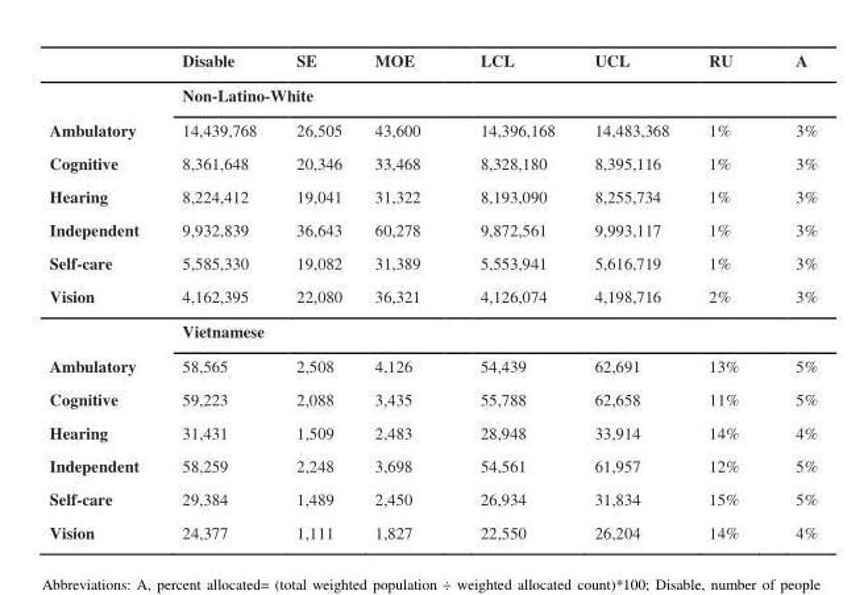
<table><thead><tr><td></td><td>Disable</td><td>SE</td><td>MOE</td><td>LCL</td><td>UCL</td><td>RU</td><td>A</td></tr></thead><tbody><tr><td></td><td colspan="7">Non-Latino-White</td></tr><tr><td>Ambulatory</td><td>14,439,768</td><td>26,505</td><td>43,600</td><td>14,396,168</td><td>14,483,368</td><td>1%</td><td>3%</td></tr><tr><td>Cognitive</td><td>8,361,648</td><td>20,346</td><td>33,468</td><td>8,328,180</td><td>8,395,116</td><td>1%</td><td>3%</td></tr><tr><td>Hearing</td><td>8,224,412</td><td>19,041</td><td>31,322</td><td>8,193,090</td><td>8,255,734</td><td>1%</td><td>3%</td></tr><tr><td>Independent</td><td>9,932,839</td><td>36,643</td><td>60,278</td><td>9,872,561</td><td>9,993,117</td><td>1%</td><td>3%</td></tr><tr><td>Self-care</td><td>5,585,330</td><td>19,082</td><td>31,389</td><td>5,553,941</td><td>5,616,719</td><td>1%</td><td>3%</td></tr><tr><td rowspan="2">Vision</td><td>4,162,395</td><td>22,080</td><td>36,321</td><td>4,126,074</td><td>4,198,716</td><td>2%</td><td>3%</td></tr><tr><td colspan="7">Vietnamese</td></tr><tr><td>Ambulatory</td><td>58,565</td><td>2,508</td><td>4,126</td><td>54,439</td><td>62,691</td><td>13%</td><td>5%</td></tr><tr><td>Cognitive</td><td>59,223</td><td>2,088</td><td>3,435</td><td>55,788</td><td>62,658</td><td>11%</td><td>5%</td></tr><tr><td>Hearing</td><td>31,431</td><td>1,509</td><td>2,483</td><td>28,948</td><td>33,914</td><td>14%</td><td>4%</td></tr><tr><td>Independent</td><td>58,259</td><td>2,248</td><td>3,698</td><td>54,561</td><td>61,957</td><td>12%</td><td>5%</td></tr><tr><td>Self-care</td><td>29,384</td><td>1,489</td><td>2,450</td><td>26,934</td><td>31,834</td><td>15%</td><td>5%</td></tr><tr><td>Vision</td><td>24,377</td><td>1,111</td><td>1,827</td><td>22,550</td><td>26,204</td><td>14%</td><td>4%</td></tr></tbody></table>